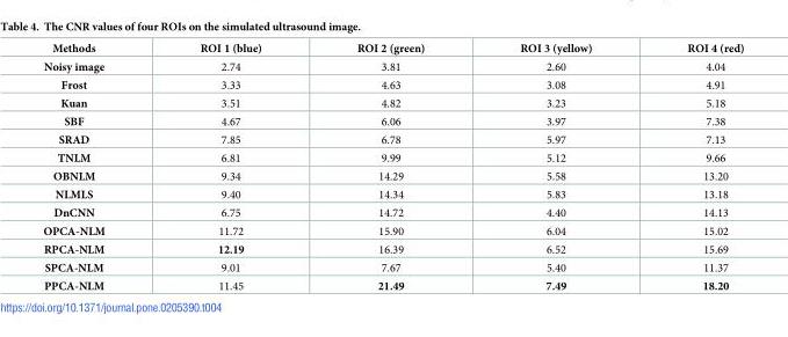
<table><thead><tr><td>Methods</td><td>ROI 1 (blue)</td><td>ROI 2 (green)</td><td>ROI 3 (yellow)</td><td>ROI 4 (red)</td></tr></thead><tbody><tr><td>Noisy image</td><td>2.74</td><td>3.81</td><td>2.60</td><td>4.04</td></tr><tr><td>Frost</td><td>3.33</td><td>4.63</td><td>3.08</td><td>4.91</td></tr><tr><td>Kuan</td><td>3.51</td><td>4.82</td><td>3.23</td><td>5.18</td></tr><tr><td>SBF</td><td>4.67</td><td>6.06</td><td>3.97</td><td>7.38</td></tr><tr><td>SRAD</td><td>7.85</td><td>6.78</td><td>5.97</td><td>7.13</td></tr><tr><td>TNLM</td><td>6.81</td><td>9.99</td><td>5.12</td><td>9.66</td></tr><tr><td>OBNLM</td><td>9.34</td><td>14.29</td><td>5.58</td><td>13.20</td></tr><tr><td>NLMLS</td><td>9.40</td><td>14.34</td><td>5.83</td><td>13.18</td></tr><tr><td>DnCNN</td><td>6.75</td><td>14.72</td><td>4.40</td><td>14.13</td></tr><tr><td>OPCA-NLM</td><td>11.72</td><td>15.90</td><td>6.04</td><td>15.02</td></tr><tr><td>RPCA-NLM</td><td>12.19</td><td>16.39</td><td>6.52</td><td>15.69</td></tr><tr><td>SPCA-NLM</td><td>9.01</td><td>7.67</td><td>5.40</td><td>11.37</td></tr><tr><td>PPCA-NLM</td><td>11.45</td><td>21.49</td><td>7.49</td><td>18.20</td></tr></tbody></table>